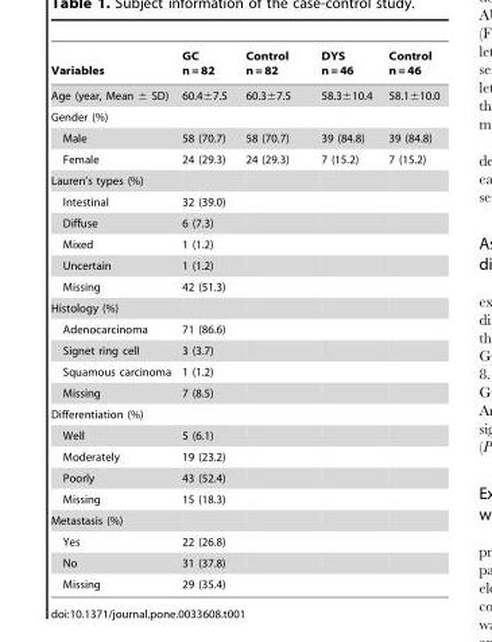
<table><thead><tr><td>Variables</td><td>GC n = 82</td><td>Control n = 82</td><td>DYS n = 46</td><td>Control n = 46</td></tr></thead><tbody><tr><td>Age (year, Mean ± SD)</td><td>60.4±7.5</td><td>60.3±7.5</td><td>58.3±10.4</td><td>58.1±10.0</td></tr><tr><td colspan="5">Gender (%)</td></tr><tr><td>Male</td><td>58 (70.7)</td><td>58 (70.7)</td><td>39 (84.8)</td><td>39 (84.8)</td></tr><tr><td>Female</td><td>24 (29.3)</td><td>24 (29.3)</td><td>7 (15.2)</td><td>7 (15.2)</td></tr><tr><td colspan="5">Lauren’s types (%)</td></tr><tr><td>Intestinal</td><td>32 (39.0)</td><td></td><td></td><td></td></tr><tr><td>Diffuse</td><td>6 (7.3)</td><td></td><td></td><td></td></tr><tr><td>Mixed</td><td>1 (1.2)</td><td></td><td></td><td></td></tr><tr><td>Uncertain</td><td>1 (1.2)</td><td></td><td></td><td></td></tr><tr><td>Missing</td><td>42 (51.3)</td><td></td><td></td><td></td></tr><tr><td colspan="5">Histology (%)</td></tr><tr><td>Adenocarcinoma</td><td>71 (86.6)</td><td></td><td></td><td></td></tr><tr><td>Signet ring cell</td><td>3 (3.7)</td><td></td><td></td><td></td></tr><tr><td>Squamous carcinoma</td><td>1 (1.2)</td><td></td><td></td><td></td></tr><tr><td>Missing</td><td>7 (8.5)</td><td></td><td></td><td></td></tr><tr><td colspan="5">Differentiation (%)</td></tr><tr><td>Well</td><td>5 (6.1)</td><td></td><td></td><td></td></tr><tr><td>Moderately</td><td>19 (23.2)</td><td></td><td></td><td></td></tr><tr><td>Poorly</td><td>43 (52.4)</td><td></td><td></td><td></td></tr><tr><td>Missing</td><td>15 (18.3)</td><td></td><td></td><td></td></tr><tr><td colspan="5">Metastasis (%)</td></tr><tr><td>Yes</td><td>22 (26.8)</td><td></td><td></td><td></td></tr><tr><td>No</td><td>31 (37.8)</td><td></td><td></td><td></td></tr><tr><td>Missing</td><td>29 (35.4)</td><td></td><td></td><td></td></tr></tbody></table>